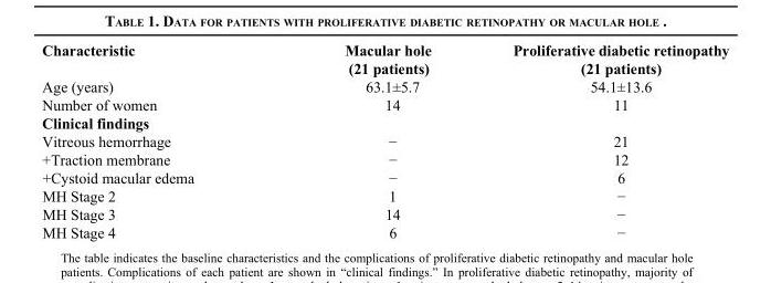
<table><thead><tr><td>Characteristic</td><td>Macular hole (21 patients)</td><td>Proliferative diabetic retinopathy (21 patients)</td></tr></thead><tbody><tr><td>Age (years)</td><td>63.1±5.7</td><td>54.1±13.6</td></tr><tr><td>Number of women</td><td>14</td><td>11</td></tr><tr><td colspan="3">Clinical findings</td></tr><tr><td>Vitreous hemorrhage</td><td>−</td><td>21</td></tr><tr><td>+Traction membrane</td><td>−</td><td>12</td></tr><tr><td>+Cystoid macular edema</td><td>−</td><td>6</td></tr><tr><td>MH Stage 2</td><td>1</td><td>−</td></tr><tr><td>MH Stage 3</td><td>14</td><td>−</td></tr><tr><td>MH Stage 4</td><td>6</td><td>−</td></tr></tbody></table>